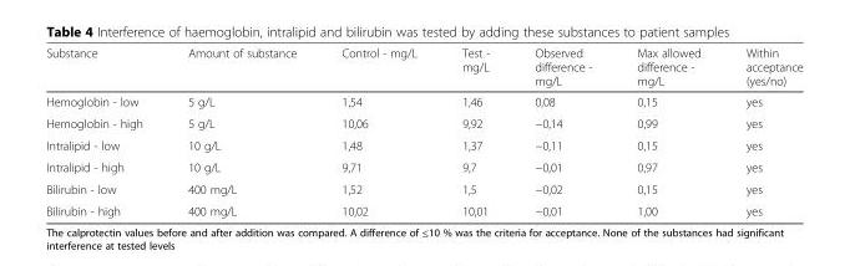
<table><thead><tr><td>Substance</td><td>Amount of substance</td><td>Control - mg/L</td><td>Test - mg/L</td><td>Observed difference - mg/L</td><td>Max allowed difference - mg/L</td><td>Within acceptance (yes/no)</td></tr></thead><tbody><tr><td>Hemoglobin - low</td><td>5 g/L</td><td>1,54</td><td>1,46</td><td>0,08</td><td>0,15</td><td>yes</td></tr><tr><td>Hemoglobin - high</td><td>5 g/L</td><td>10,06</td><td>9,92</td><td>−0,14</td><td>0,99</td><td>yes</td></tr><tr><td>Intralipid - low</td><td>10 g/L</td><td>1,48</td><td>1,37</td><td>−0,11</td><td>0,15</td><td>yes</td></tr><tr><td>Intralipid - high</td><td>10 g/L</td><td>9,71</td><td>9,7</td><td>−0,01</td><td>0,97</td><td>yes</td></tr><tr><td>Bilirubin - low</td><td>400 mg/L</td><td>1,52</td><td>1,5</td><td>−0,02</td><td>0,15</td><td>yes</td></tr><tr><td>Bilirubin - high</td><td>400 mg/L</td><td>10,02</td><td>10,01</td><td>−0,01</td><td>1,00</td><td>yes</td></tr></tbody></table>